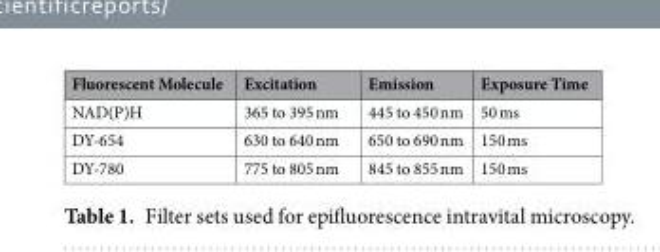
<table><thead><tr><td>Fluorescent Molecule</td><td>Excitation</td><td>Emission</td><td>Exposure Time</td></tr></thead><tbody><tr><td>NAD(P)H</td><td>365 to 395 nm</td><td>445 to 450 nm</td><td>50 ms</td></tr><tr><td>DY-654</td><td>630 to 640 nm</td><td>650 to 690 nm</td><td>150 ms</td></tr><tr><td>DY-780</td><td>775 to 805 nm</td><td>845 to 855 nm</td><td>150 ms</td></tr></tbody></table>